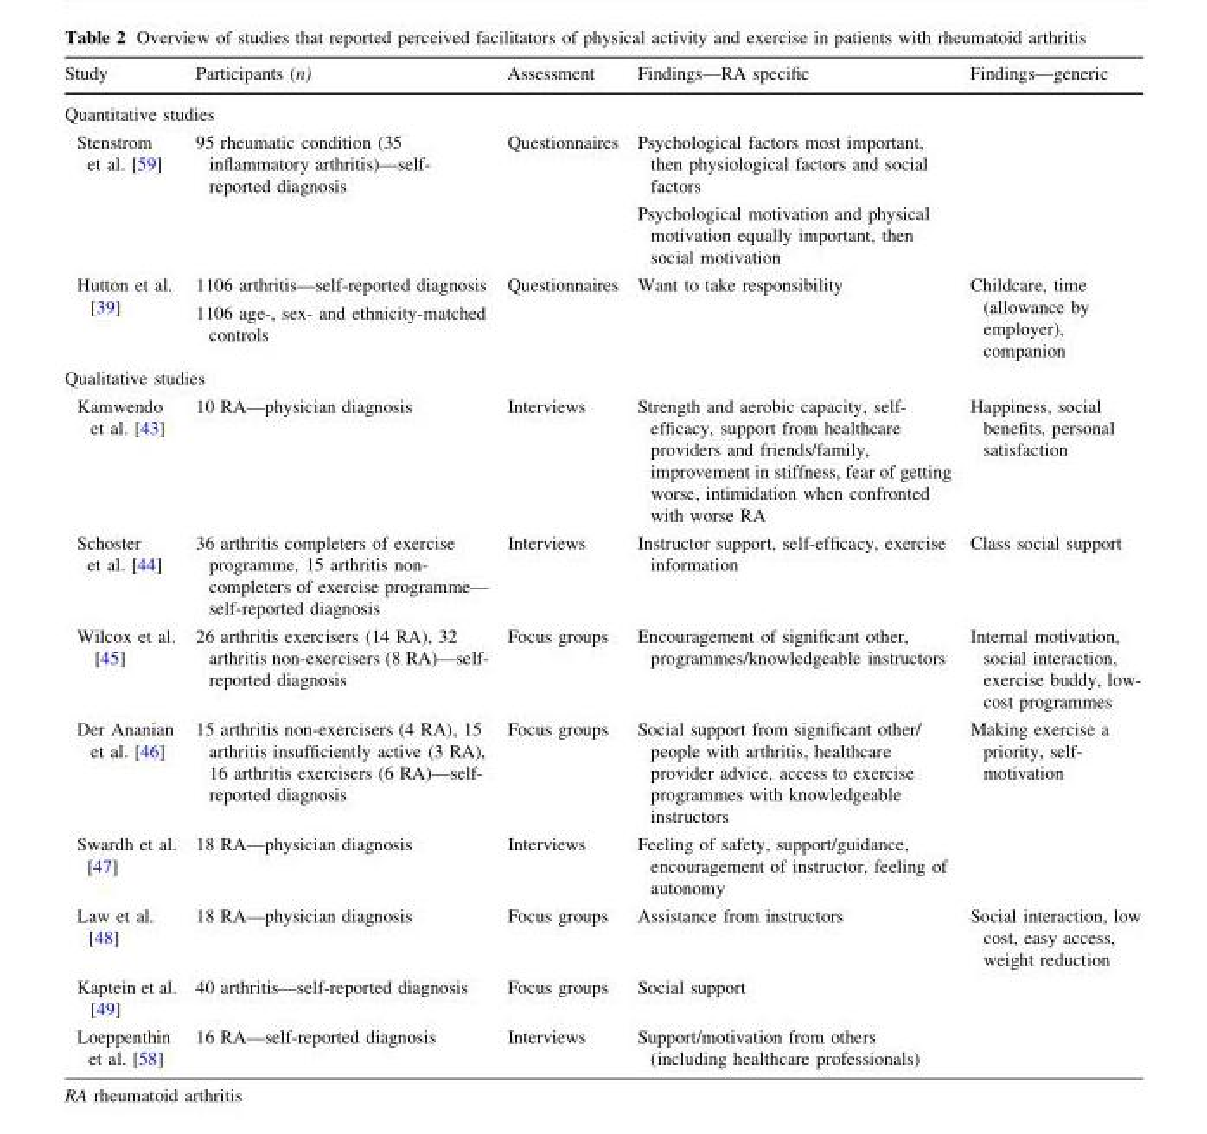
<table><thead><tr><td>Study</td><td>Participants (n)</td><td>Assessment</td><td>Findings—RA specific</td><td>Findings—generic</td></tr></thead><tbody><tr><td colspan="5">Quantitative studies</td></tr><tr><td>Stenstrom et al. [59]</td><td>95 rheumatic condition (35 inflammatory arthritis)—self- reported diagnosis</td><td>Questionnaires</td><td>Psychological factors most important, then physiological factors and social factors Psychological motivation and physical motivation equally important, then social motivation</td><td></td></tr><tr><td>Hutton et al. [39]</td><td>1106 arthritis—self-reported diagnosis 1106 age-, sex- and ethnicity-matched controls</td><td>Questionnaires</td><td>Want to take responsibility</td><td>Childcare, time (allowance by employer), companion</td></tr><tr><td colspan="5">Qualitative studies</td></tr><tr><td>Kamwendo et al. [43]</td><td>10 RA—physician diagnosis</td><td>Interviews</td><td>Strength and aerobic capacity, self- efficacy, support from healthcare providers and friends/family, improvement in stiffness, fear of getting worse, intimidation when confronted with worse RA</td><td>Happiness, social benefits, personal satisfaction</td></tr><tr><td>Schoster et al. [44]</td><td>36 arthritis completers of exercise programme, 15 arthritis non- completers of exercise programme— self-reported diagnosis</td><td>Interviews</td><td>Instructor support, self-efficacy, exercise information</td><td>Class social support</td></tr><tr><td>Wilcox et al. [45]</td><td>26 arthritis exercisers (14 RA), 32 arthritis non-exercisers (8 RA)—self- reported diagnosis</td><td>Focus groups</td><td>Encouragement of significant other, programmes/knowledgeable instructors</td><td>Internal motivation, social interaction, exercise buddy, low- cost programmes</td></tr><tr><td>Der Ananian et al. [46]</td><td>15 arthritis non-exercisers (4 RA), 15 arthritis insufficiently active (3 RA), 16 arthritis exercisers (6 RA)—self- reported diagnosis</td><td>Focus groups</td><td>Social support from significant other/ people with arthritis, healthcare provider advice, access to exercise programmes with knowledgeable instructors</td><td>Making exercise a priority, self- motivation</td></tr><tr><td>Swardh et al. [47]</td><td>18 RA—physician diagnosis</td><td>Interviews</td><td>Feeling of safety, support/guidance, encouragement of instructor, feeling of autonomy</td><td></td></tr><tr><td>Law et al. [48]</td><td>18 RA—physician diagnosis</td><td>Focus groups</td><td>Assistance from instructors</td><td>Social interaction, low cost, easy access, weight reduction</td></tr><tr><td>Kaptein et al. [49]</td><td>40 arthritis—self-reported diagnosis</td><td>Focus groups</td><td>Social support</td><td></td></tr><tr><td>Loeppenthin et al. [58]</td><td>16 RA—self-reported diagnosis</td><td>Interviews</td><td>Support/motivation from others (including healthcare professionals)</td><td></td></tr></tbody></table>